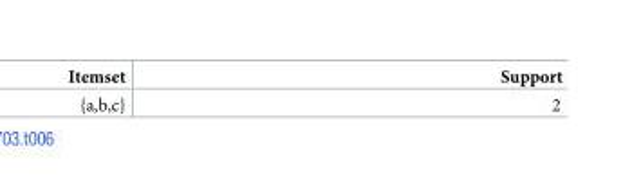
<table><thead><tr><td>Itemset</td><td>Support</td></tr></thead><tbody><tr><td>{a,b,c}</td><td>2</td></tr></tbody></table>